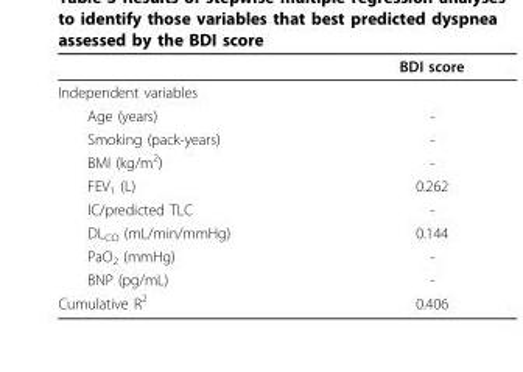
<table><thead><tr><td></td><td>BDI score</td></tr></thead><tbody><tr><td colspan="2">Independent variables</td></tr><tr><td>Age (years)</td><td>-</td></tr><tr><td>Smoking (pack-years)</td><td>-</td></tr><tr><td>BMI (kg/m<sup>2</sup>)</td><td>-</td></tr><tr><td>FEV<sub>1</sub> (L)</td><td>0.262</td></tr><tr><td>IC/predicted TLC</td><td>-</td></tr><tr><td>DL<sub>CO</sub> (mL/min/mmHg)</td><td>0.144</td></tr><tr><td>PaO<sub>2</sub> (mmHg)</td><td>-</td></tr><tr><td>BNP (pg/mL)</td><td>-</td></tr><tr><td>Cumulative R<sup>2</sup></td><td>0.406</td></tr></tbody></table>